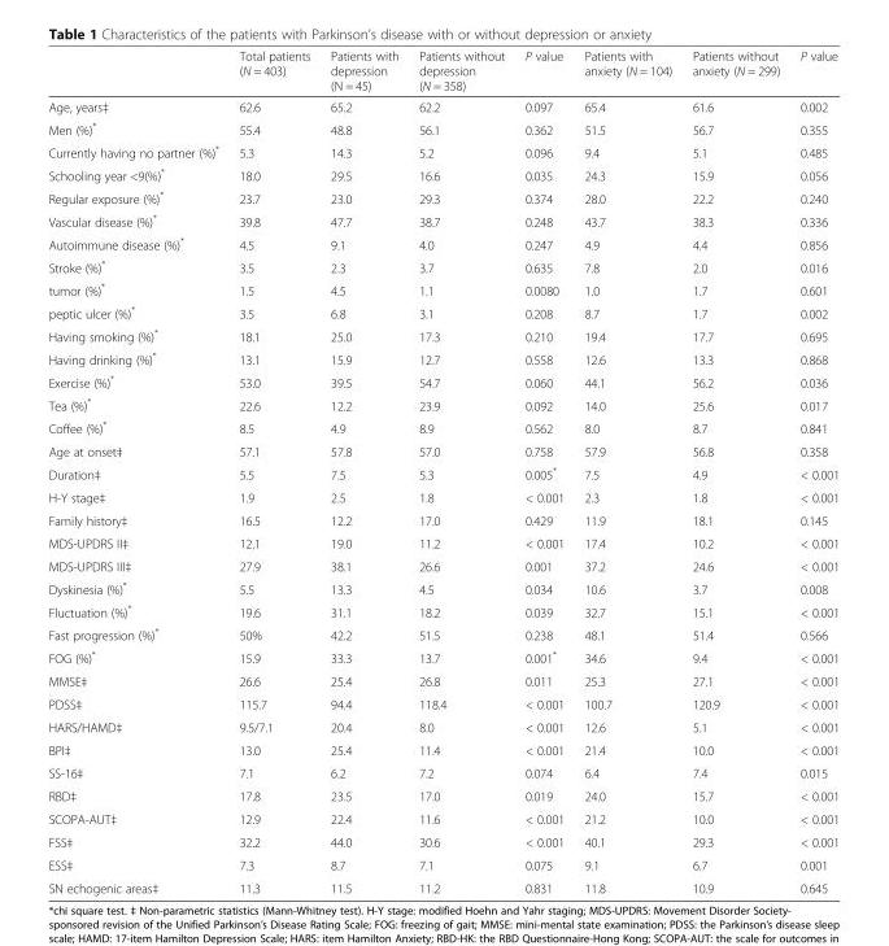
<table><thead><tr><td></td><td>Total patients (N = 403)</td><td>Patients with depression (N = 45)</td><td>Patients without depression (N = 358)</td><td>P value</td><td>Patients with anxiety (N = 104)</td><td>Patients without anxiety (N = 299)</td><td>P value</td></tr></thead><tbody><tr><td>Age, years‡</td><td>62.6</td><td>65.2</td><td>62.2</td><td>0.097</td><td>65.4</td><td>61.6</td><td>0.002</td></tr><tr><td>Men (%)*</td><td>55.4</td><td>48.8</td><td>56.1</td><td>0.362</td><td>51.5</td><td>56.7</td><td>0.355</td></tr><tr><td>Currently having no partner (%)*</td><td>5.3</td><td>14.3</td><td>5.2</td><td>0.096</td><td>9.4</td><td>5.1</td><td>0.485</td></tr><tr><td>Schooling year &lt;9(%)*</td><td>18.0</td><td>29.5</td><td>16.6</td><td>0.035</td><td>24.3</td><td>15.9</td><td>0.056</td></tr><tr><td>Regular exposure (%)*</td><td>23.7</td><td>23.0</td><td>29.3</td><td>0.374</td><td>28.0</td><td>22.2</td><td>0.240</td></tr><tr><td>Vascular disease (%)*</td><td>39.8</td><td>47.7</td><td>38.7</td><td>0.248</td><td>43.7</td><td>38.3</td><td>0.336</td></tr><tr><td>Autoimmune disease (%)*</td><td>4.5</td><td>9.1</td><td>4.0</td><td>0.247</td><td>4.9</td><td>4.4</td><td>0.856</td></tr><tr><td>Stroke (%)*</td><td>3.5</td><td>2.3</td><td>3.7</td><td>0.635</td><td>7.8</td><td>2.0</td><td>0.016</td></tr><tr><td>tumor (%)*</td><td>1.5</td><td>4.5</td><td>1.1</td><td>0.0080</td><td>1.0</td><td>1.7</td><td>0.601</td></tr><tr><td>peptic ulcer (%)*</td><td>3.5</td><td>6.8</td><td>3.1</td><td>0.208</td><td>8.7</td><td>1.7</td><td>0.002</td></tr><tr><td>Having smoking (%)*</td><td>18.1</td><td>25.0</td><td>17.3</td><td>0.210</td><td>19.4</td><td>17.7</td><td>0.695</td></tr><tr><td>Having drinking (%)*</td><td>13.1</td><td>15.9</td><td>12.7</td><td>0.558</td><td>12.6</td><td>13.3</td><td>0.868</td></tr><tr><td>Exercise (%)*</td><td>53.0</td><td>39.5</td><td>54.7</td><td>0.060</td><td>44.1</td><td>56.2</td><td>0.036</td></tr><tr><td>Tea (%)*</td><td>22.6</td><td>12.2</td><td>23.9</td><td>0.092</td><td>14.0</td><td>25.6</td><td>0.017</td></tr><tr><td>Coffee (%)*</td><td>8.5</td><td>4.9</td><td>8.9</td><td>0.562</td><td>8.0</td><td>8.7</td><td>0.841</td></tr><tr><td>Age at onset‡</td><td>57.1</td><td>57.8</td><td>57.0</td><td>0.758</td><td>57.9</td><td>56.8</td><td>0.358</td></tr><tr><td>Duration‡</td><td>5.5</td><td>7.5</td><td>5.3</td><td>0.005*</td><td>7.5</td><td>4.9</td><td>&lt; 0.001</td></tr><tr><td>H-Y stage‡</td><td>1.9</td><td>2.5</td><td>1.8</td><td>&lt; 0.001</td><td>2.3</td><td>1.8</td><td>&lt; 0.001</td></tr><tr><td>Family history‡</td><td>16.5</td><td>12.2</td><td>17.0</td><td>0.429</td><td>11.9</td><td>18.1</td><td>0.145</td></tr><tr><td>MDS-UPDRS II‡</td><td>12.1</td><td>19.0</td><td>11.2</td><td>&lt; 0.001</td><td>17.4</td><td>10.2</td><td>&lt; 0.001</td></tr><tr><td>MDS-UPDRS III‡</td><td>27.9</td><td>38.1</td><td>26.6</td><td>0.001</td><td>37.2</td><td>24.6</td><td>&lt; 0.001</td></tr><tr><td>Dyskinesia (%)*</td><td>5.5</td><td>13.3</td><td>4.5</td><td>0.034</td><td>10.6</td><td>3.7</td><td>0.008</td></tr><tr><td>Fluctuation (%)*</td><td>19.6</td><td>31.1</td><td>18.2</td><td>0.039</td><td>32.7</td><td>15.1</td><td>&lt; 0.001</td></tr><tr><td>Fast progression (%)*</td><td>50%</td><td>42.2</td><td>51.5</td><td>0.238</td><td>48.1</td><td>51.4</td><td>0.566</td></tr><tr><td>FOG (%)*</td><td>15.9</td><td>33.3</td><td>13.7</td><td>0.001*</td><td>34.6</td><td>9.4</td><td>&lt; 0.001</td></tr><tr><td>MMSE‡</td><td>26.6</td><td>25.4</td><td>26.8</td><td>0.011</td><td>25.3</td><td>27.1</td><td>&lt; 0.001</td></tr><tr><td>PDSS‡</td><td>115.7</td><td>94.4</td><td>118.4</td><td>&lt; 0.001</td><td>100.7</td><td>120.9</td><td>&lt; 0.001</td></tr><tr><td>HARS/HAMD‡</td><td>9.5/7.1</td><td>20.4</td><td>8.0</td><td>&lt; 0.001</td><td>12.6</td><td>5.1</td><td>&lt; 0.001</td></tr><tr><td>BPI‡</td><td>13.0</td><td>25.4</td><td>11.4</td><td>&lt; 0.001</td><td>21.4</td><td>10.0</td><td>&lt; 0.001</td></tr><tr><td>SS-16‡</td><td>7.1</td><td>6.2</td><td>7.2</td><td>0.074</td><td>6.4</td><td>7.4</td><td>0.015</td></tr><tr><td>RBD‡</td><td>17.8</td><td>23.5</td><td>17.0</td><td>0.019</td><td>24.0</td><td>15.7</td><td>&lt; 0.001</td></tr><tr><td>SCOPA-AUT‡</td><td>12.9</td><td>22.4</td><td>11.6</td><td>&lt; 0.001</td><td>21.2</td><td>10.0</td><td>&lt; 0.001</td></tr><tr><td>FSS‡</td><td>32.2</td><td>44.0</td><td>30.6</td><td>&lt; 0.001</td><td>40.1</td><td>29.3</td><td>&lt; 0.001</td></tr><tr><td>ESS‡</td><td>7.3</td><td>8.7</td><td>7.1</td><td>0.075</td><td>9.1</td><td>6.7</td><td>0.001</td></tr><tr><td>SN echogenic areas‡</td><td>11.3</td><td>11.5</td><td>11.2</td><td>0.831</td><td>11.8</td><td>10.9</td><td>0.645</td></tr></tbody></table>